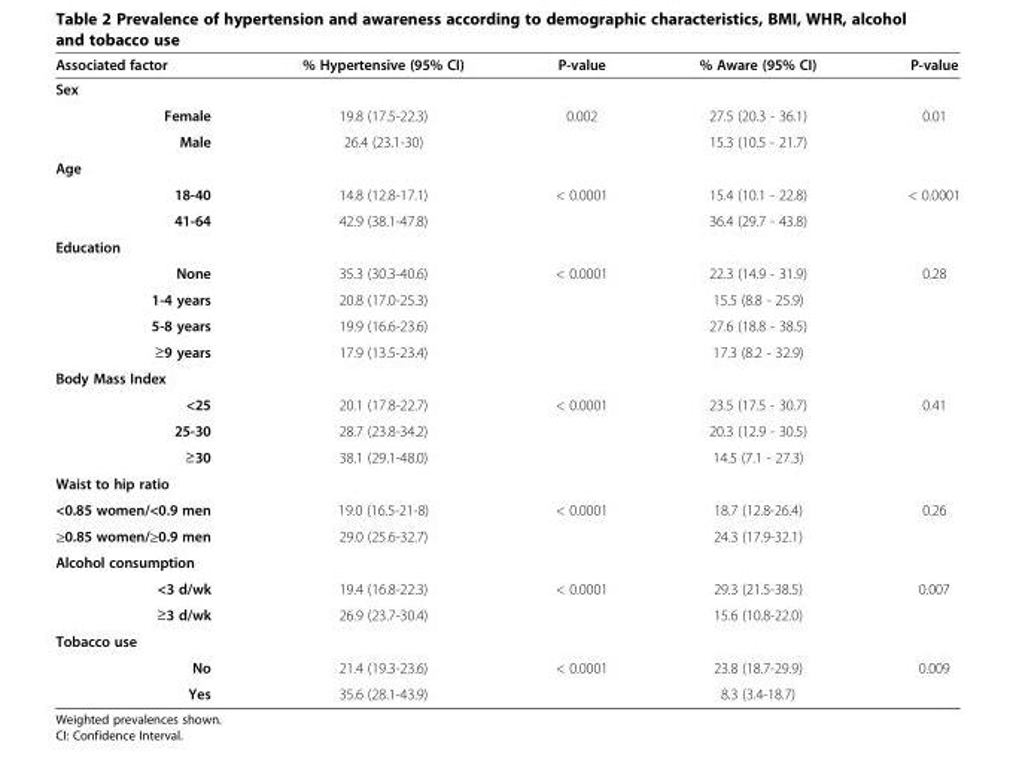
<table><thead><tr><td>Associated factor</td><td>% Hypertensive (95% CI)</td><td>P-value</td><td>% Aware (95% CI)</td><td>P-value</td></tr></thead><tbody><tr><td colspan="5">Sex</td></tr><tr><td>Female</td><td>19.8 (17.5-22.3)</td><td>0.002</td><td>27.5 (20.3 - 36.1)</td><td>0.01</td></tr><tr><td>Male</td><td>26.4 (23.1-30)</td><td></td><td>15.3 (10.5 - 21.7)</td><td></td></tr><tr><td colspan="5">Age</td></tr><tr><td>18-40</td><td>14.8 (12.8-17.1)</td><td>&lt; 0.0001</td><td>15.4 (10.1 - 22.8)</td><td>&lt; 0.0001</td></tr><tr><td>41-64</td><td>42.9 (38.1-47.8)</td><td></td><td>36.4 (29.7 - 43.8)</td><td></td></tr><tr><td colspan="5">Education</td></tr><tr><td>None</td><td>35.3 (30.3-40.6)</td><td>&lt; 0.0001</td><td>22.3 (14.9 - 31.9)</td><td>0.28</td></tr><tr><td>1-4 years</td><td>20.8 (17.0-25.3)</td><td></td><td>15.5 (8.8 - 25.9)</td><td></td></tr><tr><td>5-8 years</td><td>19.9 (16.6-23.6)</td><td></td><td>27.6 (18.8 - 38.5)</td><td></td></tr><tr><td>≥9 years</td><td>17.9 (13.5-23.4)</td><td></td><td>17.3 (8.2 - 32.9)</td><td></td></tr><tr><td colspan="5">Body Mass Index</td></tr><tr><td>&lt;25</td><td>20.1 (17.8-22.7)</td><td>&lt; 0.0001</td><td>23.5 (17.5 - 30.7)</td><td>0.41</td></tr><tr><td>25-30</td><td>28.7 (23.8-34.2)</td><td></td><td>20.3 (12.9 - 30.5)</td><td></td></tr><tr><td>≥30</td><td>38.1 (29.1-48.0)</td><td></td><td>14.5 (7.1 - 27.3)</td><td></td></tr><tr><td colspan="5">Waist to hip ratio</td></tr><tr><td>&lt;0.85 women/&lt;0.9 men</td><td>19.0 (16.5-21-8)</td><td>&lt; 0.0001</td><td>18.7 (12.8-26.4)</td><td>0.26</td></tr><tr><td>≥0.85 women/≥0.9 men</td><td>29.0 (25.6-32.7)</td><td></td><td>24.3 (17.9-32.1)</td><td></td></tr><tr><td colspan="5">Alcohol consumption</td></tr><tr><td>&lt;3 d/wk</td><td>19.4 (16.8-22.3)</td><td>&lt; 0.0001</td><td>29.3 (21.5-38.5)</td><td>0.007</td></tr><tr><td>≥3 d/wk</td><td>26.9 (23.7-30.4)</td><td></td><td>15.6 (10.8-22.0)</td><td></td></tr><tr><td colspan="5">Tobacco use</td></tr><tr><td>No</td><td>21.4 (19.3-23.6)</td><td>&lt; 0.0001</td><td>23.8 (18.7-29.9)</td><td>0.009</td></tr><tr><td>Yes</td><td>35.6 (28.1-43.9)</td><td></td><td>8.3 (3.4-18.7)</td><td></td></tr></tbody></table>